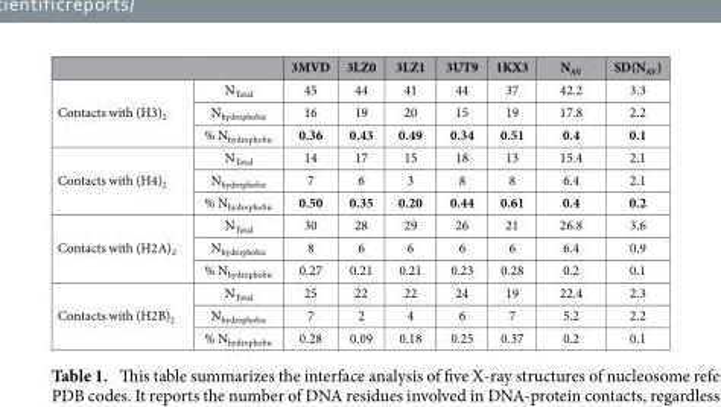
<table><thead><tr><td></td><td></td><td>3MVD</td><td>3LZ0</td><td>3LZ1</td><td>3UT9</td><td>1KX3</td><td>N<sub>AV</sub></td><td>SD(N<sub>AV</sub>)</td></tr></thead><tbody><tr><td rowspan="3">Contacts with (H3)<sub>2</sub></td><td>N<sub>Total</sub></td><td>45</td><td>44</td><td>41</td><td>44</td><td>37</td><td>42.2</td><td>3.3</td></tr><tr><td>N<sub>hydrophobic</sub></td><td>16</td><td>19</td><td>20</td><td>15</td><td>19</td><td>17.8</td><td>2.2</td></tr><tr><td>% N<sub>hydrophobic</sub></td><td>0.36</td><td>0.43</td><td>0.49</td><td>0.34</td><td>0.51</td><td>0.4</td><td>0.1</td></tr><tr><td rowspan="3">Contacts with (H4)<sub>2</sub></td><td>N<sub>Total</sub></td><td>14</td><td>17</td><td>15</td><td>18</td><td>13</td><td>15.4</td><td>2.1</td></tr><tr><td>N<sub>hydrophobic</sub></td><td>7</td><td>6</td><td>3</td><td>8</td><td>8</td><td>6.4</td><td>2.1</td></tr><tr><td>% N<sub>hydrophobic</sub></td><td>0.50</td><td>0.35</td><td>0.20</td><td>0.44</td><td>0.61</td><td>0.4</td><td>0.2</td></tr><tr><td rowspan="3">Contacts with (H2A)<sub>2</sub></td><td>N<sub>Total</sub></td><td>30</td><td>28</td><td>29</td><td>26</td><td>21</td><td>26.8</td><td>3.6</td></tr><tr><td>N<sub>hydrophobic</sub></td><td>8</td><td>6</td><td>6</td><td>6</td><td>6</td><td>6.4</td><td>0.9</td></tr><tr><td>% N<sub>hydrophobic</sub></td><td>0.27</td><td>0.21</td><td>0.21</td><td>0.23</td><td>0.28</td><td>0.2</td><td>0.1</td></tr><tr><td rowspan="3">Contacts with (H2B)<sub>2</sub></td><td>N<sub>Total</sub></td><td>25</td><td>22</td><td>22</td><td>24</td><td>19</td><td>22.4</td><td>2.3</td></tr><tr><td>N<sub>hydrophobic</sub></td><td>7</td><td>2</td><td>4</td><td>6</td><td>7</td><td>5.2</td><td>2.2</td></tr><tr><td>% N<sub>hydrophobic</sub></td><td>0.28</td><td>0.09</td><td>0.18</td><td>0.25</td><td>0.37</td><td>0.2</td><td>0.1</td></tr></tbody></table>